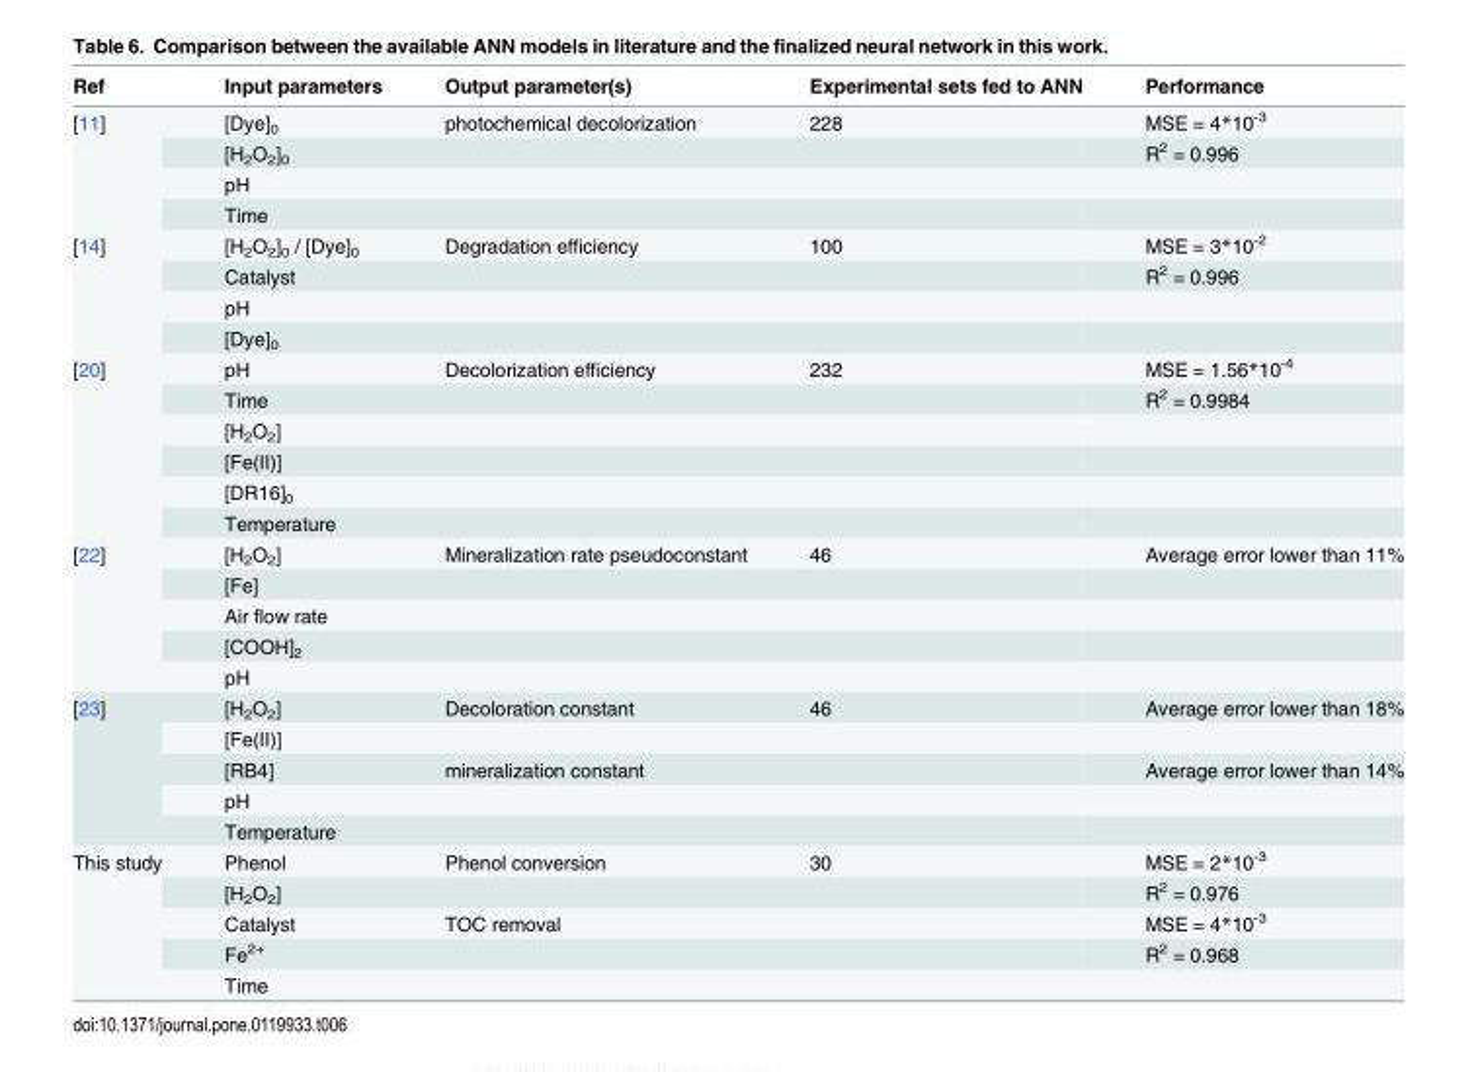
<table><thead><tr><td>Ref</td><td>Input parameters</td><td>Output parameter(s)</td><td>Experimental sets fed to ANN</td><td>Performance</td></tr></thead><tbody><tr><td rowspan="4">[11]</td><td>[Dye]<sub>0</sub></td><td>photochemical decolorization</td><td>228</td><td>MSE = 4*10<sup>-3</sup></td></tr><tr><td>[H<sub>2</sub>O<sub>2</sub>]<sub>0</sub></td><td></td><td></td><td>R<sup>2</sup> = 0.996</td></tr><tr><td>pH</td><td></td><td></td><td></td></tr><tr><td>Time</td><td></td><td></td><td></td></tr><tr><td rowspan="4">[14]</td><td>[H<sub>2</sub>O<sub>2</sub>]<sub>0</sub> / [Dye]<sub>0</sub></td><td>Degradation efficiency</td><td>100</td><td>MSE = 3*10<sup>-2</sup></td></tr><tr><td>Catalyst</td><td></td><td></td><td>R<sup>2</sup> = 0.996</td></tr><tr><td>pH</td><td></td><td></td><td></td></tr><tr><td>[Dye]<sub>0</sub></td><td></td><td></td><td></td></tr><tr><td rowspan="6">[20]</td><td>pH</td><td>Decolorization efficiency</td><td>232</td><td>MSE = 1.56*10<sup>-4</sup></td></tr><tr><td>Time</td><td></td><td></td><td>R<sup>2</sup> = 0.9984</td></tr><tr><td>[H<sub>2</sub>O<sub>2</sub>]</td><td></td><td></td><td></td></tr><tr><td>[Fe(II)]</td><td></td><td></td><td></td></tr><tr><td>[DR16]<sub>0</sub></td><td></td><td></td><td></td></tr><tr><td>Temperature</td><td></td><td></td><td></td></tr><tr><td rowspan="5">[22]</td><td>[H<sub>2</sub>O<sub>2</sub>]</td><td>Mineralization rate pseudoconstant</td><td>46</td><td>Average error lower than 11%</td></tr><tr><td>[Fe]</td><td></td><td></td><td></td></tr><tr><td>Air flow rate</td><td></td><td></td><td></td></tr><tr><td>[COOH]<sub>2</sub></td><td></td><td></td><td></td></tr><tr><td>pH</td><td></td><td></td><td></td></tr><tr><td rowspan="5">[23]</td><td>[H<sub>2</sub>O<sub>2</sub>]</td><td>Decoloration constant</td><td>46</td><td>Average error lower than 18%</td></tr><tr><td>[Fe(II)]</td><td></td><td></td><td></td></tr><tr><td>[RB4]</td><td>mineralization constant</td><td></td><td>Average error lower than 14%</td></tr><tr><td>pH</td><td></td><td></td><td></td></tr><tr><td>Temperature</td><td></td><td></td><td></td></tr><tr><td rowspan="5">This study</td><td>Phenol</td><td>Phenol conversion</td><td>30</td><td>MSE = 2*10<sup>-3</sup></td></tr><tr><td>[H<sub>2</sub>O<sub>2</sub>]</td><td></td><td></td><td>R<sup>2</sup> = 0.976</td></tr><tr><td>Catalyst</td><td>TOC removal</td><td></td><td>MSE = 4*10<sup>-3</sup></td></tr><tr><td>Fe<sup>2+</sup></td><td></td><td></td><td>R<sup>2</sup> = 0.968</td></tr><tr><td>Time</td><td></td><td></td><td></td></tr></tbody></table>